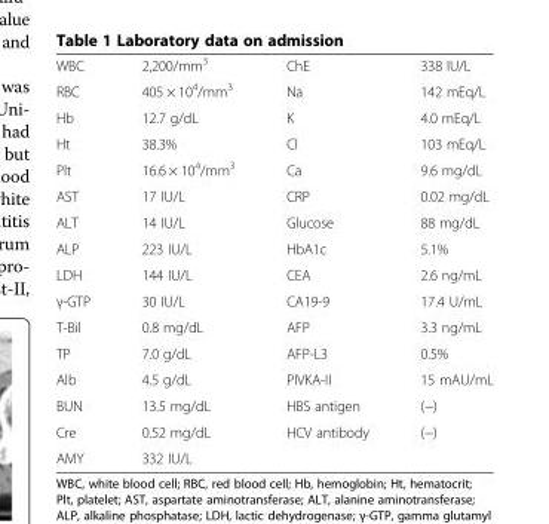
<table><tbody><tr><td>WBC</td><td>2,200/mm<sup>3</sup></td><td>ChE</td><td>338 IU/L</td></tr><tr><td>RBC</td><td>405 × 10<sup>4</sup>/mm<sup>3</sup></td><td>Na</td><td>142 mEq/L</td></tr><tr><td>Hb</td><td>12.7 g/dL</td><td>K</td><td>4.0 mEq/L</td></tr><tr><td>Ht</td><td>38.3%</td><td>Cl</td><td>103 mEq/L</td></tr><tr><td>Plt</td><td>16.6 × 10<sup>4</sup>/mm<sup>3</sup></td><td>Ca</td><td>9.6 mg/dL</td></tr><tr><td>AST</td><td>17 IU/L</td><td>CRP</td><td>0.02 mg/dL</td></tr><tr><td>ALT</td><td>14 IU/L</td><td>Glucose</td><td>88 mg/dL</td></tr><tr><td>ALP</td><td>223 IU/L</td><td>HbA1c</td><td>5.1%</td></tr><tr><td>LDH</td><td>144 IU/L</td><td>CEA</td><td>2.6 ng/mL</td></tr><tr><td>γ-GTP</td><td>30 IU/L</td><td>CA19-9</td><td>17.4 U/mL</td></tr><tr><td>T-Bil</td><td>0.8 mg/dL</td><td>AFP</td><td>3.3 ng/mL</td></tr><tr><td>TP</td><td>7.0 g/dL</td><td>AFP-L3</td><td>0.5%</td></tr><tr><td>Alb</td><td>4.5 g/dL</td><td>PIVKA-II</td><td>15 mAU/mL</td></tr><tr><td>BUN</td><td>13.5 mg/dL</td><td>HBS antigen</td><td>(−)</td></tr><tr><td>Cre</td><td>0.52 mg/dL</td><td>HCV antibody</td><td>(−)</td></tr><tr><td>AMY</td><td>332 IU/L</td><td></td><td></td></tr></tbody></table>